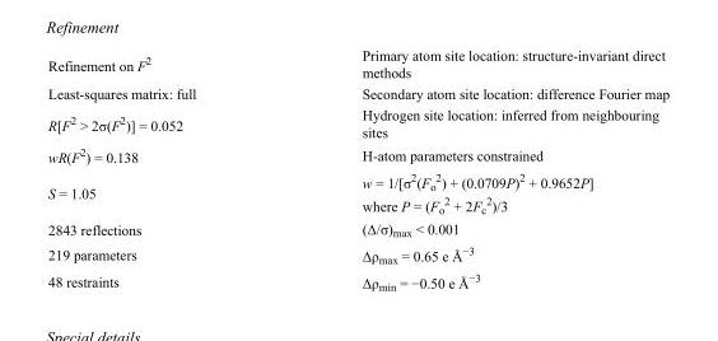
<table><tbody><tr><td>Refinement on F<sup>2</sup></td><td>Primary atom site location: structure-invariant direct methods</td></tr><tr><td>Least-squares matrix: full</td><td>Secondary atom site location: difference Fourier map</td></tr><tr><td>R[F<sup>2</sup> &gt; 2σ(F<sup>2</sup>)] = 0.052</td><td>Hydrogen site location: inferred from neighbouring sites</td></tr><tr><td>wR(F<sup>2</sup>) = 0.138</td><td>H-atom parameters constrained</td></tr><tr><td>S = 1.05</td><td>w = 1/[σ<sup>2</sup>(F<sub>o</sub> <sup>2</sup>) + (0.0709P)<sup>2</sup> + 0.9652P] where P = (F<sub>o</sub> <sup>2</sup> + 2F<sub>c</sub> <sup>2</sup>)/3</td></tr><tr><td>2843 reflections</td><td>(Δ/σ)<sub>max</sub> &lt; 0.001</td></tr><tr><td>219 parameters</td><td>Δρ<sub>max</sub> = 0.65 e Å<sup>−3</sup></td></tr><tr><td>48 restraints</td><td>Δρ<sub>min</sub> = −0.50 e Å<sup>−3</sup></td></tr></tbody></table>